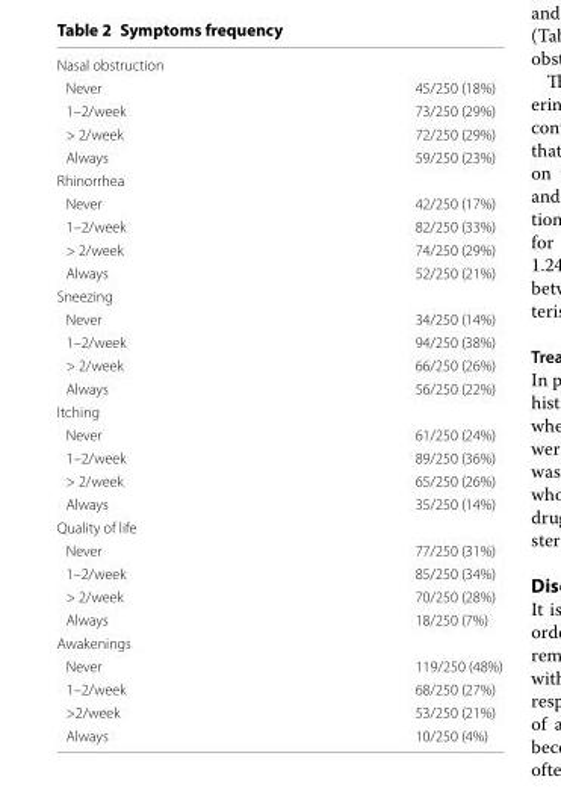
<table><tbody><tr><td colspan="2">Nasal obstruction</td></tr><tr><td>Never</td><td>45/250 (18%)</td></tr><tr><td>1–2/week</td><td>73/250 (29%)</td></tr><tr><td>&gt; 2/week</td><td>72/250 (29%)</td></tr><tr><td>Always</td><td>59/250 (23%)</td></tr><tr><td colspan="2">Rhinorrhea</td></tr><tr><td>Never</td><td>42/250 (17%)</td></tr><tr><td>1–2/week</td><td>82/250 (33%)</td></tr><tr><td>&gt; 2/week</td><td>74/250 (29%)</td></tr><tr><td>Always</td><td>52/250 (21%)</td></tr><tr><td colspan="2">Sneezing</td></tr><tr><td>Never</td><td>34/250 (14%)</td></tr><tr><td>1–2/week</td><td>94/250 (38%)</td></tr><tr><td>&gt; 2/week</td><td>66/250 (26%)</td></tr><tr><td>Always</td><td>56/250 (22%)</td></tr><tr><td colspan="2">Itching</td></tr><tr><td>Never</td><td>61/250 (24%)</td></tr><tr><td>1–2/week</td><td>89/250 (36%)</td></tr><tr><td>&gt; 2/week</td><td>65/250 (26%)</td></tr><tr><td>Always</td><td>35/250 (14%)</td></tr><tr><td colspan="2">Quality of life</td></tr><tr><td>Never</td><td>77/250 (31%)</td></tr><tr><td>1–2/week</td><td>85/250 (34%)</td></tr><tr><td>&gt; 2/week</td><td>70/250 (28%)</td></tr><tr><td>Always</td><td>18/250 (7%)</td></tr><tr><td colspan="2">Awakenings</td></tr><tr><td>Never</td><td>119/250 (48%)</td></tr><tr><td>1–2/week</td><td>68/250 (27%)</td></tr><tr><td>&gt;2/week</td><td>53/250 (21%)</td></tr><tr><td>Always</td><td>10/250 (4%)</td></tr></tbody></table>